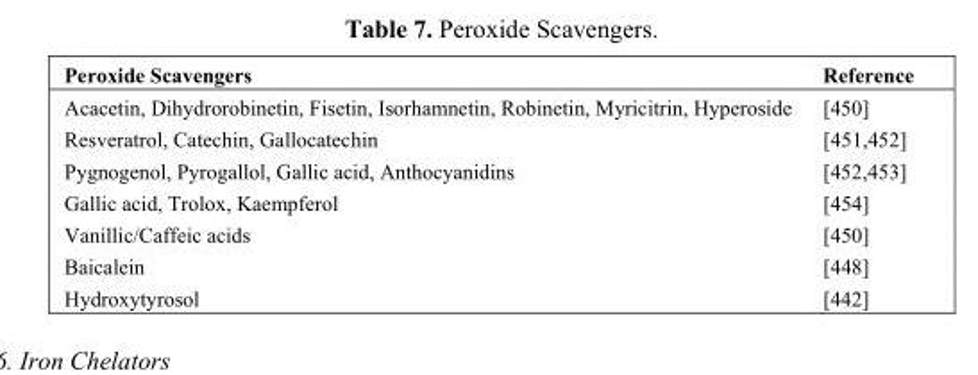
<table><thead><tr><td>Peroxide Scavengers</td><td>Reference</td></tr></thead><tbody><tr><td>Acacetin, Dihydrorobinetin, Fisetin, Isorhamnetin, Robinetin, Myricitrin, Hyperoside</td><td>[450]</td></tr><tr><td>Resveratrol, Catechin, Gallocatechin</td><td>[451,452]</td></tr><tr><td>Pygnogenol, Pyrogallol, Gallic acid, Anthocyanidins</td><td>[452,453]</td></tr><tr><td>Gallic acid, Trolox, Kaempferol</td><td>[454]</td></tr><tr><td>Vanillic/Caffeic acids</td><td>[450]</td></tr><tr><td>Baicalein</td><td>[448]</td></tr><tr><td>Hydroxytyrosol</td><td>[442]</td></tr></tbody></table>